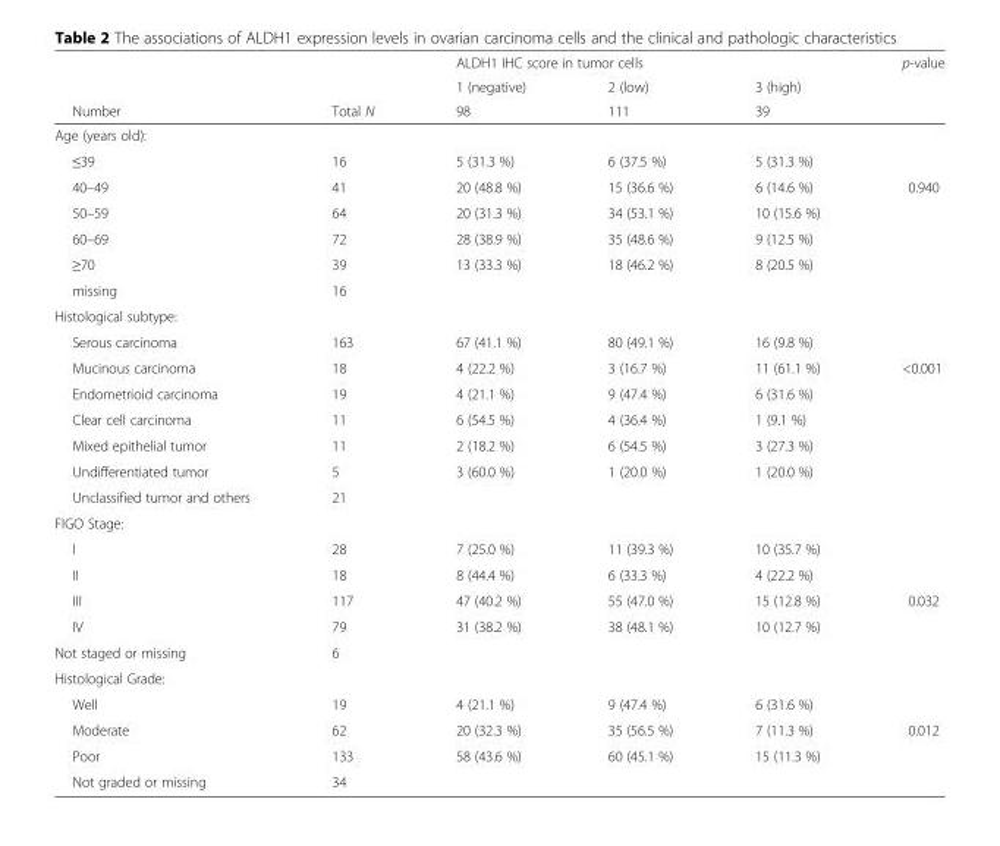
<table><thead><tr><td rowspan="3">Number</td><td rowspan="3">Total N</td><td colspan="3">ALDH1 IHC score in tumor cells</td><td rowspan="3">p-value</td></tr><tr><td rowspan="2">1 (negative) 98</td><td rowspan="2">2 (low) 111</td><td rowspan="2">3 (high) 39</td></tr><tr></tr></thead><tbody><tr><td colspan="6">Age (years old):</td></tr><tr><td>≤39</td><td>16</td><td>5 (31.3 %)</td><td>6 (37.5 %)</td><td>5 (31.3 %)</td><td></td></tr><tr><td>40–49</td><td>41</td><td>20 (48.8 %)</td><td>15 (36.6 %)</td><td>6 (14.6 %)</td><td>0.940</td></tr><tr><td>50–59</td><td>64</td><td>20 (31.3 %)</td><td>34 (53.1 %)</td><td>10 (15.6 %)</td><td></td></tr><tr><td>60–69</td><td>72</td><td>28 (38.9 %)</td><td>35 (48.6 %)</td><td>9 (12.5 %)</td><td></td></tr><tr><td>≥70</td><td>39</td><td>13 (33.3 %)</td><td>18 (46.2 %)</td><td>8 (20.5 %)</td><td></td></tr><tr><td>missing</td><td>16</td><td></td><td></td><td></td><td></td></tr><tr><td colspan="6">Histological subtype:</td></tr><tr><td>Serous carcinoma</td><td>163</td><td>67 (41.1 %)</td><td>80 (49.1 %)</td><td>16 (9.8 %)</td><td></td></tr><tr><td>Mucinous carcinoma</td><td>18</td><td>4 (22.2 %)</td><td>3 (16.7 %)</td><td>11 (61.1 %)</td><td>&lt;0.001</td></tr><tr><td>Endometrioid carcinoma</td><td>19</td><td>4 (21.1 %)</td><td>9 (47.4 %)</td><td>6 (31.6 %)</td><td></td></tr><tr><td>Clear cell carcinoma</td><td>11</td><td>6 (54.5 %)</td><td>4 (36.4 %)</td><td>1 (9.1 %)</td><td></td></tr><tr><td>Mixed epithelial tumor</td><td>11</td><td>2 (18.2 %)</td><td>6 (54.5 %)</td><td>3 (27.3 %)</td><td></td></tr><tr><td>Undifferentiated tumor</td><td>5</td><td>3 (60.0 %)</td><td>1 (20.0 %)</td><td>1 (20.0 %)</td><td></td></tr><tr><td>Unclassified tumor and others</td><td>21</td><td></td><td></td><td></td><td></td></tr><tr><td colspan="6">FIGO Stage:</td></tr><tr><td>I</td><td>28</td><td>7 (25.0 %)</td><td>11 (39.3 %)</td><td>10 (35.7 %)</td><td></td></tr><tr><td>II</td><td>18</td><td>8 (44.4 %)</td><td>6 (33.3 %)</td><td>4 (22.2 %)</td><td></td></tr><tr><td>III</td><td>117</td><td>47 (40.2 %)</td><td>55 (47.0 %)</td><td>15 (12.8 %)</td><td>0.032</td></tr><tr><td>IV</td><td>79</td><td>31 (38.2 %)</td><td>38 (48.1 %)</td><td>10 (12.7 %)</td><td></td></tr><tr><td>Not staged or missing</td><td>6</td><td></td><td></td><td></td><td></td></tr><tr><td colspan="6">Histological Grade:</td></tr><tr><td>Well</td><td>19</td><td>4 (21.1 %)</td><td>9 (47.4 %)</td><td>6 (31.6 %)</td><td></td></tr><tr><td>Moderate</td><td>62</td><td>20 (32.3 %)</td><td>35 (56.5 %)</td><td>7 (11.3 %)</td><td>0.012</td></tr><tr><td>Poor</td><td>133</td><td>58 (43.6 %)</td><td>60 (45.1 %)</td><td>15 (11.3 %)</td><td></td></tr><tr><td>Not graded or missing</td><td>34</td><td></td><td></td><td></td><td></td></tr></tbody></table>